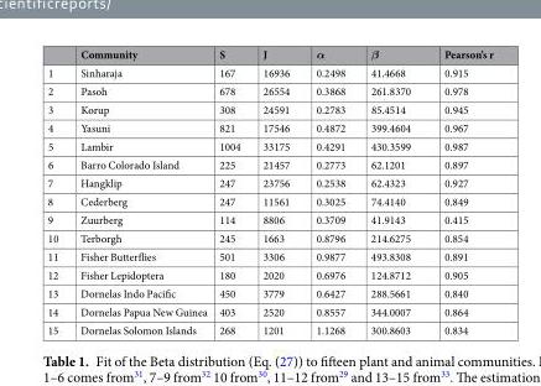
<table><thead><tr><td></td><td>Community</td><td>S</td><td>J</td><td>α</td><td>β</td><td>Pearson’s r</td></tr></thead><tbody><tr><td>1</td><td>Sinharaja</td><td>167</td><td>16936</td><td>0.2498</td><td>41.4668</td><td>0.915</td></tr><tr><td>2</td><td>Pasoh</td><td>678</td><td>26554</td><td>0.3868</td><td>261.8370</td><td>0.978</td></tr><tr><td>3</td><td>Korup</td><td>308</td><td>24591</td><td>0.2783</td><td>85.4514</td><td>0.945</td></tr><tr><td>4</td><td>Yasuni</td><td>821</td><td>17546</td><td>0.4872</td><td>399.4604</td><td>0.967</td></tr><tr><td>5</td><td>Lambir</td><td>1004</td><td>33175</td><td>0.4291</td><td>430.3599</td><td>0.987</td></tr><tr><td>6</td><td>Barro Colorado Island</td><td>225</td><td>21457</td><td>0.2773</td><td>62.1201</td><td>0.897</td></tr><tr><td>7</td><td>Hangklip</td><td>247</td><td>23756</td><td>0.2538</td><td>62.4323</td><td>0.927</td></tr><tr><td>8</td><td>Cederberg</td><td>247</td><td>11561</td><td>0.3025</td><td>74.4140</td><td>0.849</td></tr><tr><td>9</td><td>Zuurberg</td><td>114</td><td>8806</td><td>0.3709</td><td>41.9143</td><td>0.415</td></tr><tr><td>10</td><td>Terborgh</td><td>245</td><td>1663</td><td>0.8796</td><td>214.6275</td><td>0.854</td></tr><tr><td>11</td><td>Fisher Butterflies</td><td>501</td><td>3306</td><td>0.9877</td><td>493.8308</td><td>0.891</td></tr><tr><td>12</td><td>Fisher Lepidoptera</td><td>180</td><td>2020</td><td>0.6976</td><td>124.8712</td><td>0.905</td></tr><tr><td>13</td><td>Dornelas Indo Pacific</td><td>450</td><td>3779</td><td>0.6427</td><td>288.5661</td><td>0.840</td></tr><tr><td>14</td><td>Dornelas Papua New Guinea</td><td>403</td><td>2520</td><td>0.8557</td><td>344.0007</td><td>0.864</td></tr><tr><td>15</td><td>Dornelas Solomon Islands</td><td>268</td><td>1201</td><td>1.1268</td><td>300.8603</td><td>0.834</td></tr></tbody></table>